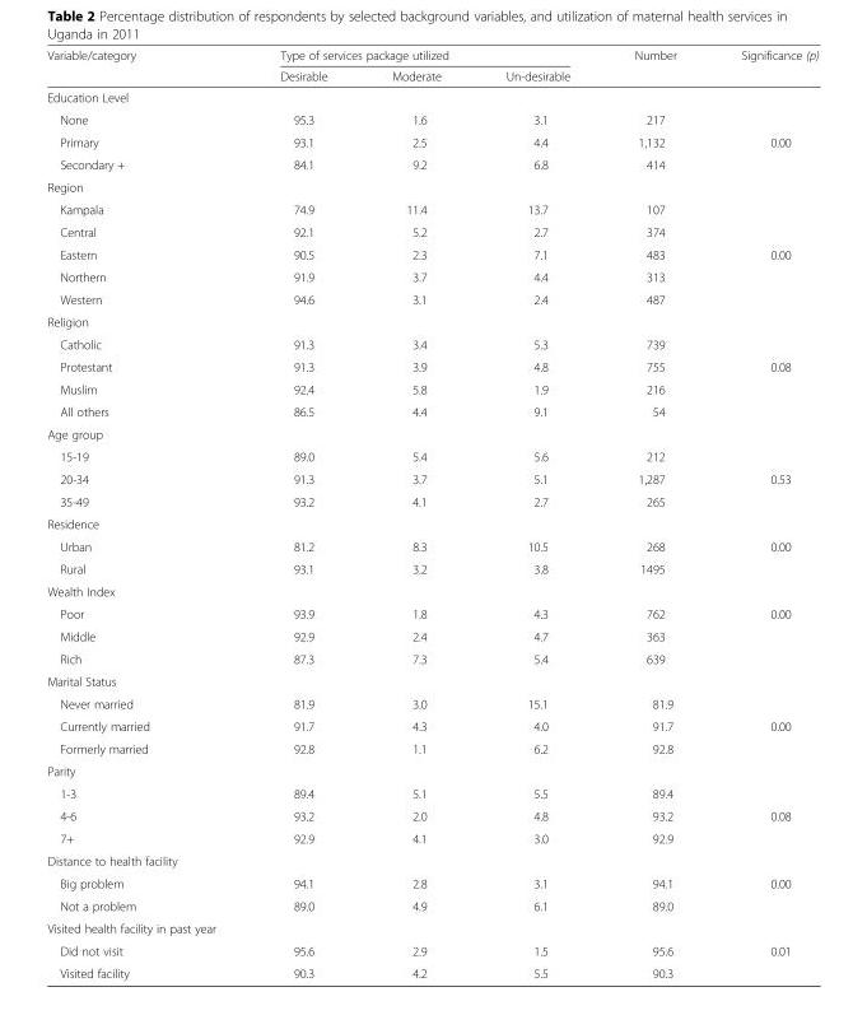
<table><thead><tr><td rowspan="2">Variable/category</td><td colspan="3">Type of services package utilized</td><td rowspan="2">Number</td><td rowspan="2">Significance (p)</td></tr><tr><td>Desirable</td><td>Moderate</td><td>Un-desirable</td></tr></thead><tbody><tr><td colspan="6">Education Level</td></tr><tr><td>None</td><td>95.3</td><td>1.6</td><td>3.1</td><td>217</td><td></td></tr><tr><td>Primary</td><td>93.1</td><td>2.5</td><td>4.4</td><td>1,132</td><td>0.00</td></tr><tr><td>Secondary +</td><td>84.1</td><td>9.2</td><td>6.8</td><td>414</td><td></td></tr><tr><td colspan="6">Region</td></tr><tr><td>Kampala</td><td>74.9</td><td>11.4</td><td>13.7</td><td>107</td><td></td></tr><tr><td>Central</td><td>92.1</td><td>5.2</td><td>2.7</td><td>374</td><td></td></tr><tr><td>Eastern</td><td>90.5</td><td>2.3</td><td>7.1</td><td>483</td><td>0.00</td></tr><tr><td>Northern</td><td>91.9</td><td>3.7</td><td>4.4</td><td>313</td><td></td></tr><tr><td>Western</td><td>94.6</td><td>3.1</td><td>2.4</td><td>487</td><td></td></tr><tr><td colspan="6">Religion</td></tr><tr><td>Catholic</td><td>91.3</td><td>3.4</td><td>5.3</td><td>739</td><td></td></tr><tr><td>Protestant</td><td>91.3</td><td>3.9</td><td>4.8</td><td>755</td><td>0.08</td></tr><tr><td>Muslim</td><td>92.4</td><td>5.8</td><td>1.9</td><td>216</td><td></td></tr><tr><td>All others</td><td>86.5</td><td>4.4</td><td>9.1</td><td>54</td><td></td></tr><tr><td colspan="6">Age group</td></tr><tr><td>15-19</td><td>89.0</td><td>5.4</td><td>5.6</td><td>212</td><td></td></tr><tr><td>20-34</td><td>91.3</td><td>3.7</td><td>5.1</td><td>1,287</td><td>0.53</td></tr><tr><td>35-49</td><td>93.2</td><td>4.1</td><td>2.7</td><td>265</td><td></td></tr><tr><td colspan="6">Residence</td></tr><tr><td>Urban</td><td>81.2</td><td>8.3</td><td>10.5</td><td>268</td><td>0.00</td></tr><tr><td>Rural</td><td>93.1</td><td>3.2</td><td>3.8</td><td>1495</td><td></td></tr><tr><td colspan="6">Wealth Index</td></tr><tr><td>Poor</td><td>93.9</td><td>1.8</td><td>4.3</td><td>762</td><td>0.00</td></tr><tr><td>Middle</td><td>92.9</td><td>2.4</td><td>4.7</td><td>363</td><td></td></tr><tr><td>Rich</td><td>87.3</td><td>7.3</td><td>5.4</td><td>639</td><td></td></tr><tr><td colspan="6">Marital Status</td></tr><tr><td>Never married</td><td>81.9</td><td>3.0</td><td>15.1</td><td>81.9</td><td></td></tr><tr><td>Currently married</td><td>91.7</td><td>4.3</td><td>4.0</td><td>91.7</td><td>0.00</td></tr><tr><td>Formerly married</td><td>92.8</td><td>1.1</td><td>6.2</td><td>92.8</td><td></td></tr><tr><td colspan="6">Parity</td></tr><tr><td>1-3</td><td>89.4</td><td>5.1</td><td>5.5</td><td>89.4</td><td></td></tr><tr><td>4-6</td><td>93.2</td><td>2.0</td><td>4.8</td><td>93.2</td><td>0.08</td></tr><tr><td>7+</td><td>92.9</td><td>4.1</td><td>3.0</td><td>92.9</td><td></td></tr><tr><td colspan="6">Distance to health facility</td></tr><tr><td>Big problem</td><td>94.1</td><td>2.8</td><td>3.1</td><td>94.1</td><td>0.00</td></tr><tr><td>Not a problem</td><td>89.0</td><td>4.9</td><td>6.1</td><td>89.0</td><td></td></tr><tr><td colspan="6">Visited health facility in past year</td></tr><tr><td>Did not visit</td><td>95.6</td><td>2.9</td><td>1.5</td><td>95.6</td><td>0.01</td></tr><tr><td>Visited facility</td><td>90.3</td><td>4.2</td><td>5.5</td><td>90.3</td><td></td></tr></tbody></table>